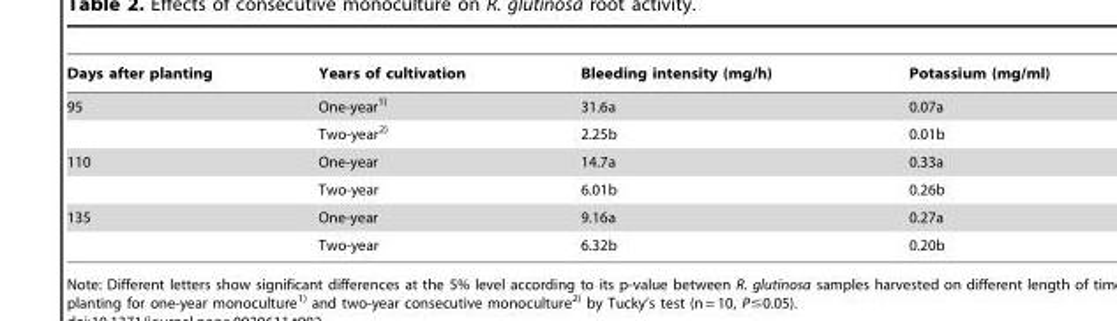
<table><thead><tr><td>Days after planting</td><td>Years of cultivation</td><td>Bleeding intensity (mg/h)</td><td>Potassium (mg/ml)</td></tr></thead><tbody><tr><td rowspan="2">95</td><td>One-year<sup>1)</sup></td><td>31.6a</td><td>0.07a</td></tr><tr><td>Two-year<sup>2)</sup></td><td>2.25b</td><td>0.01b</td></tr><tr><td rowspan="2">110</td><td>One-year</td><td>14.7a</td><td>0.33a</td></tr><tr><td>Two-year</td><td>6.01b</td><td>0.26b</td></tr><tr><td rowspan="2">135</td><td>One-year</td><td>9.16a</td><td>0.27a</td></tr><tr><td>Two-year</td><td>6.32b</td><td>0.20b</td></tr></tbody></table>